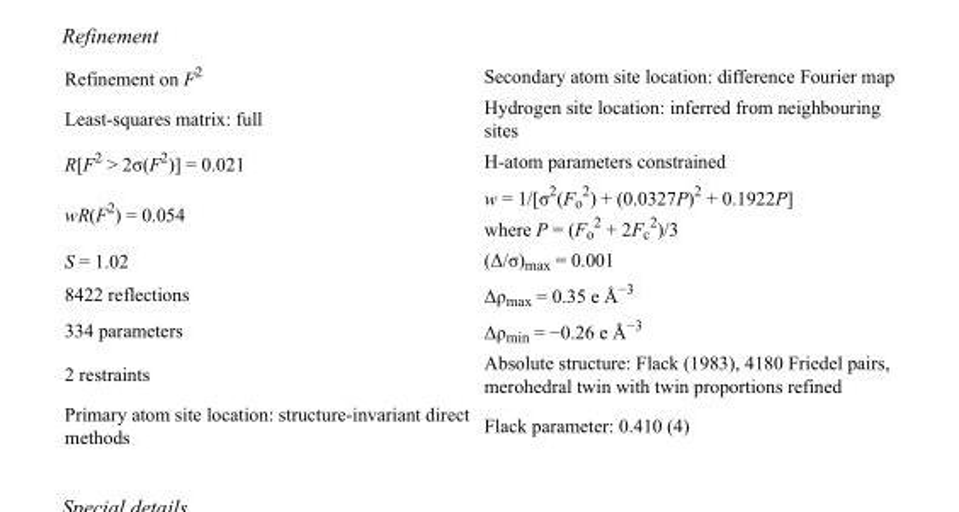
<table><tbody><tr><td>Refinement on F<sup>2</sup></td><td>Secondary atom site location: difference Fourier map</td></tr><tr><td>Least-squares matrix: full</td><td>Hydrogen site location: inferred from neighbouring sites</td></tr><tr><td>R[F<sup>2</sup> &gt; 2σ(F<sup>2</sup>)] = 0.021</td><td>H-atom parameters constrained</td></tr><tr><td>wR(F<sup>2</sup>) = 0.054</td><td>w = 1/[σ<sup>2</sup>(F<sub>o</sub> <sup>2</sup>) + (0.0327P)<sup>2</sup> + 0.1922P] where P = (F<sub>o</sub> <sup>2</sup> + 2F<sub>c</sub> <sup>2</sup>)/3</td></tr><tr><td>S = 1.02</td><td>(Δ/σ)<sub>max</sub> = 0.001</td></tr><tr><td>8422 reflections</td><td>Δρ<sub>max</sub> = 0.35 e Å<sup>−3</sup></td></tr><tr><td>334 parameters</td><td>Δρ<sub>min</sub> = −0.26 e Å<sup>−3</sup></td></tr><tr><td>2 restraints</td><td>Absolute structure: Flack (1983), 4180 Friedel pairs, merohedral twin with twin proportions refined</td></tr><tr><td>Primary atom site location: structure-invariant direct methods</td><td>Flack parameter: 0.410 (4)</td></tr></tbody></table>